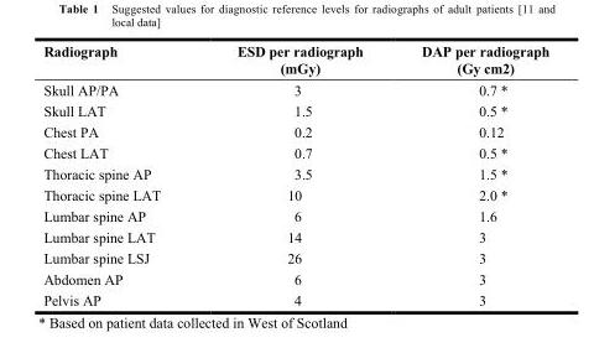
<table><thead><tr><td>Radiograph</td><td>ESD per radiograph (mGy)</td><td>DAP per radiograph (Gy cm2)</td></tr></thead><tbody><tr><td>Skull AP/PA</td><td>3</td><td>0.7 *</td></tr><tr><td>Skull LAT</td><td>1.5</td><td>0.5 *</td></tr><tr><td>Chest PA</td><td>0.2</td><td>0.12</td></tr><tr><td>Chest LAT</td><td>0.7</td><td>0.5 *</td></tr><tr><td>Thoracic spine AP</td><td>3.5</td><td>1.5 *</td></tr><tr><td>Thoracic spine LAT</td><td>10</td><td>2.0 *</td></tr><tr><td>Lumbar spine AP</td><td>6</td><td>1.6</td></tr><tr><td>Lumbar spine LAT</td><td>14</td><td>3</td></tr><tr><td>Lumbar spine LSJ</td><td>26</td><td>3</td></tr><tr><td>Abdomen AP</td><td>6</td><td>3</td></tr><tr><td>Pelvis AP</td><td>4</td><td>3</td></tr></tbody></table>